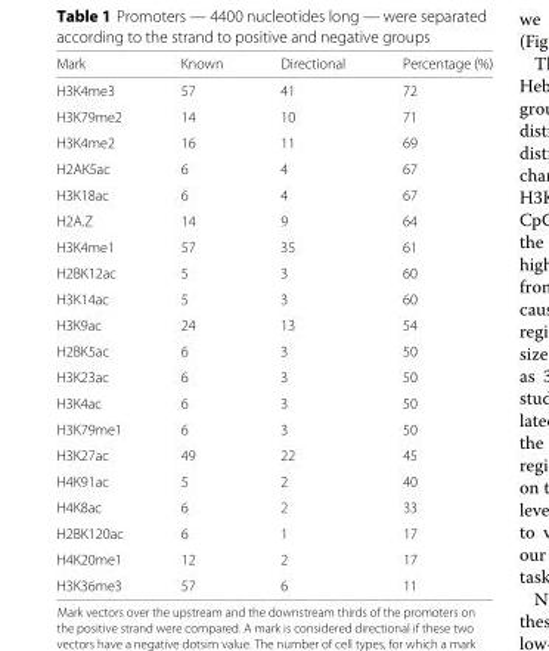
<table><thead><tr><td>Mark</td><td>Known</td><td>Directional</td><td>Percentage (%)</td></tr></thead><tbody><tr><td>H3K4me3</td><td>57</td><td>41</td><td>72</td></tr><tr><td>H3K79me2</td><td>14</td><td>10</td><td>71</td></tr><tr><td>H3K4me2</td><td>16</td><td>11</td><td>69</td></tr><tr><td>H2AK5ac</td><td>6</td><td>4</td><td>67</td></tr><tr><td>H3K18ac</td><td>6</td><td>4</td><td>67</td></tr><tr><td>H2A.Z</td><td>14</td><td>9</td><td>64</td></tr><tr><td>H3K4me1</td><td>57</td><td>35</td><td>61</td></tr><tr><td>H2BK12ac</td><td>5</td><td>3</td><td>60</td></tr><tr><td>H3K14ac</td><td>5</td><td>3</td><td>60</td></tr><tr><td>H3K9ac</td><td>24</td><td>13</td><td>54</td></tr><tr><td>H2BK5ac</td><td>6</td><td>3</td><td>50</td></tr><tr><td>H3K23ac</td><td>6</td><td>3</td><td>50</td></tr><tr><td>H3K4ac</td><td>6</td><td>3</td><td>50</td></tr><tr><td>H3K79me1</td><td>6</td><td>3</td><td>50</td></tr><tr><td>H3K27ac</td><td>49</td><td>22</td><td>45</td></tr><tr><td>H4K91ac</td><td>5</td><td>2</td><td>40</td></tr><tr><td>H4K8ac</td><td>6</td><td>2</td><td>33</td></tr><tr><td>H2BK120ac</td><td>6</td><td>1</td><td>17</td></tr><tr><td>H4K20me1</td><td>12</td><td>2</td><td>17</td></tr><tr><td>H3K36me3</td><td>57</td><td>6</td><td>11</td></tr></tbody></table>